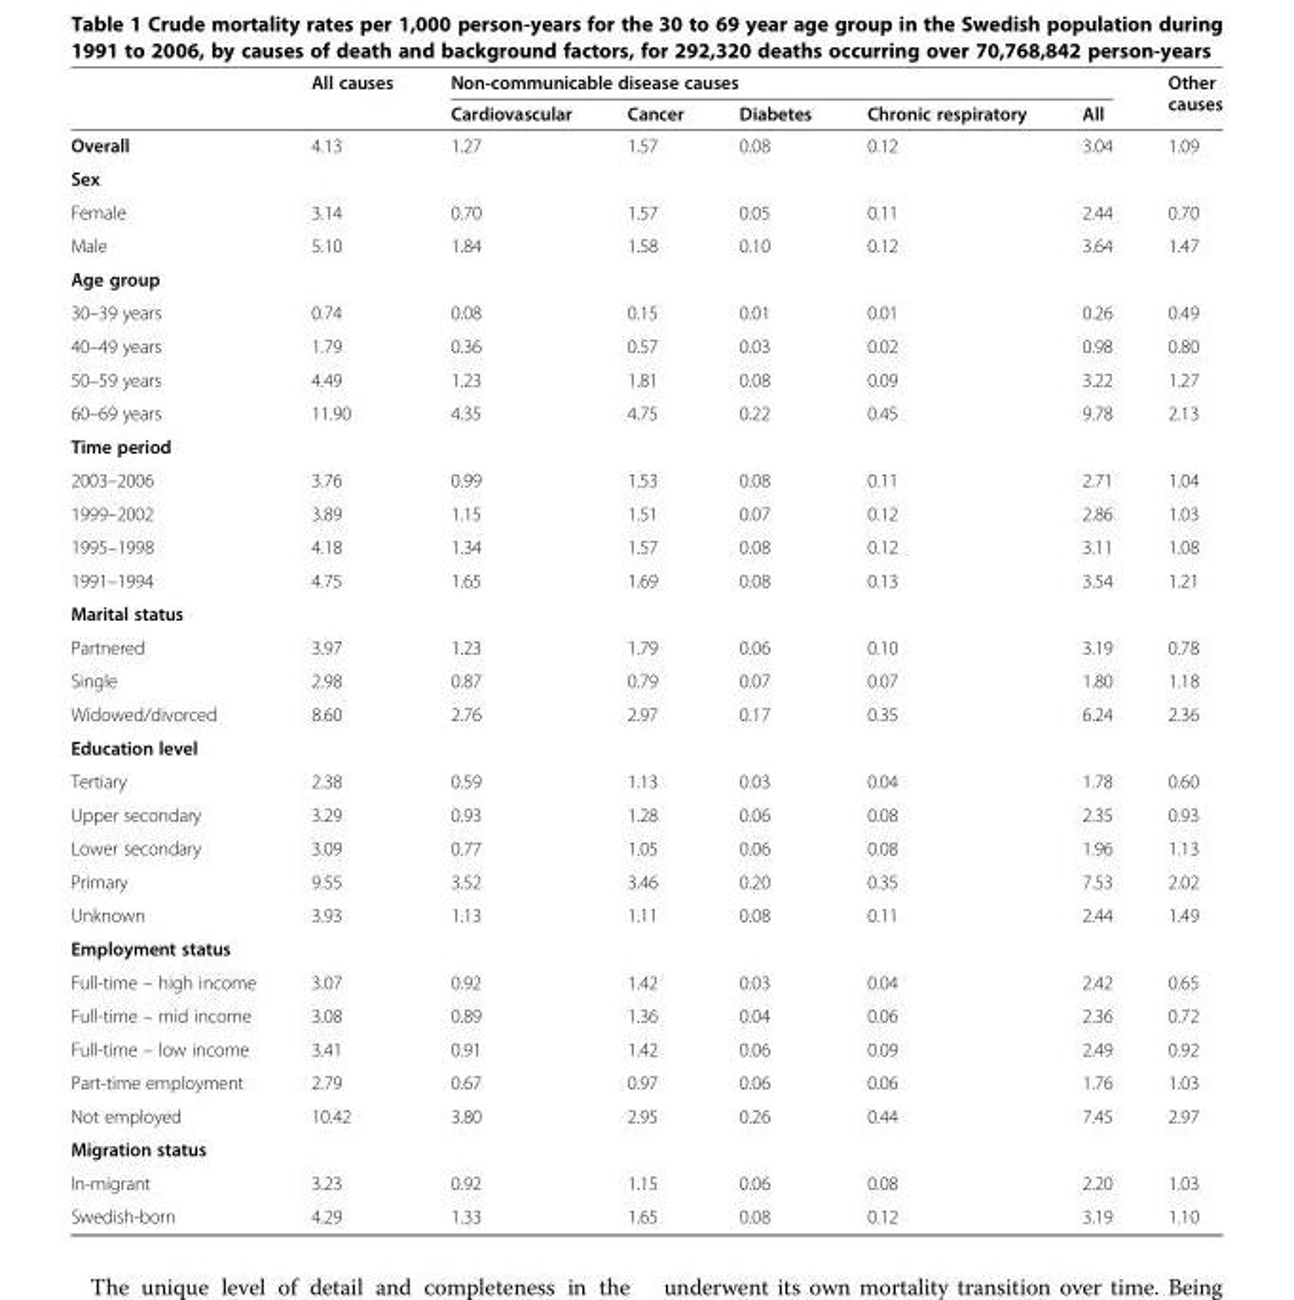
<table><thead><tr><td rowspan="2"></td><td rowspan="2">All causes</td><td colspan="5">Non-communicable disease causes</td><td rowspan="2">Other causes</td></tr><tr><td>Cardiovascular</td><td>Cancer</td><td>Diabetes</td><td>Chronic respiratory</td><td>All</td></tr></thead><tbody><tr><td>Overall</td><td>4.13</td><td>1.27</td><td>1.57</td><td>0.08</td><td>0.12</td><td>3.04</td><td>1.09</td></tr><tr><td colspan="8">Sex</td></tr><tr><td>Female</td><td>3.14</td><td>0.70</td><td>1.57</td><td>0.05</td><td>0.11</td><td>2.44</td><td>0.70</td></tr><tr><td>Male</td><td>5.10</td><td>1.84</td><td>1.58</td><td>0.10</td><td>0.12</td><td>3.64</td><td>1.47</td></tr><tr><td colspan="8">Age group</td></tr><tr><td>30–39 years</td><td>0.74</td><td>0.08</td><td>0.15</td><td>0.01</td><td>0.01</td><td>0.26</td><td>0.49</td></tr><tr><td>40–49 years</td><td>1.79</td><td>0.36</td><td>0.57</td><td>0.03</td><td>0.02</td><td>0.98</td><td>0.80</td></tr><tr><td>50–59 years</td><td>4.49</td><td>1.23</td><td>1.81</td><td>0.08</td><td>0.09</td><td>3.22</td><td>1.27</td></tr><tr><td>60–69 years</td><td>11.90</td><td>4.35</td><td>4.75</td><td>0.22</td><td>0.45</td><td>9.78</td><td>2.13</td></tr><tr><td colspan="8">Time period</td></tr><tr><td>2003–2006</td><td>3.76</td><td>0.99</td><td>1.53</td><td>0.08</td><td>0.11</td><td>2.71</td><td>1.04</td></tr><tr><td>1999–2002</td><td>3.89</td><td>1.15</td><td>1.51</td><td>0.07</td><td>0.12</td><td>2.86</td><td>1.03</td></tr><tr><td>1995–1998</td><td>4.18</td><td>1.34</td><td>1.57</td><td>0.08</td><td>0.12</td><td>3.11</td><td>1.08</td></tr><tr><td>1991–1994</td><td>4.75</td><td>1.65</td><td>1.69</td><td>0.08</td><td>0.13</td><td>3.54</td><td>1.21</td></tr><tr><td colspan="8">Marital status</td></tr><tr><td>Partnered</td><td>3.97</td><td>1.23</td><td>1.79</td><td>0.06</td><td>0.10</td><td>3.19</td><td>0.78</td></tr><tr><td>Single</td><td>2.98</td><td>0.87</td><td>0.79</td><td>0.07</td><td>0.07</td><td>1.80</td><td>1.18</td></tr><tr><td>Widowed/divorced</td><td>8.60</td><td>2.76</td><td>2.97</td><td>0.17</td><td>0.35</td><td>6.24</td><td>2.36</td></tr><tr><td colspan="8">Education level</td></tr><tr><td>Tertiary</td><td>2.38</td><td>0.59</td><td>1.13</td><td>0.03</td><td>0.04</td><td>1.78</td><td>0.60</td></tr><tr><td>Upper secondary</td><td>3.29</td><td>0.93</td><td>1.28</td><td>0.06</td><td>0.08</td><td>2.35</td><td>0.93</td></tr><tr><td>Lower secondary</td><td>3.09</td><td>0.77</td><td>1.05</td><td>0.06</td><td>0.08</td><td>1.96</td><td>1.13</td></tr><tr><td>Primary</td><td>9.55</td><td>3.52</td><td>3.46</td><td>0.20</td><td>0.35</td><td>7.53</td><td>2.02</td></tr><tr><td>Unknown</td><td>3.93</td><td>1.13</td><td>1.11</td><td>0.08</td><td>0.11</td><td>2.44</td><td>1.49</td></tr><tr><td colspan="8">Employment status</td></tr><tr><td>Full-time – high income</td><td>3.07</td><td>0.92</td><td>1.42</td><td>0.03</td><td>0.04</td><td>2.42</td><td>0.65</td></tr><tr><td>Full-time – mid income</td><td>3.08</td><td>0.89</td><td>1.36</td><td>0.04</td><td>0.06</td><td>2.36</td><td>0.72</td></tr><tr><td>Full-time – low income</td><td>3.41</td><td>0.91</td><td>1.42</td><td>0.06</td><td>0.09</td><td>2.49</td><td>0.92</td></tr><tr><td>Part-time employment</td><td>2.79</td><td>0.67</td><td>0.97</td><td>0.06</td><td>0.06</td><td>1.76</td><td>1.03</td></tr><tr><td>Not employed</td><td>10.42</td><td>3.80</td><td>2.95</td><td>0.26</td><td>0.44</td><td>7.45</td><td>2.97</td></tr><tr><td colspan="8">Migration status</td></tr><tr><td>In-migrant</td><td>3.23</td><td>0.92</td><td>1.15</td><td>0.06</td><td>0.08</td><td>2.20</td><td>1.03</td></tr><tr><td>Swedish-born</td><td>4.29</td><td>1.33</td><td>1.65</td><td>0.08</td><td>0.12</td><td>3.19</td><td>1.10</td></tr></tbody></table>